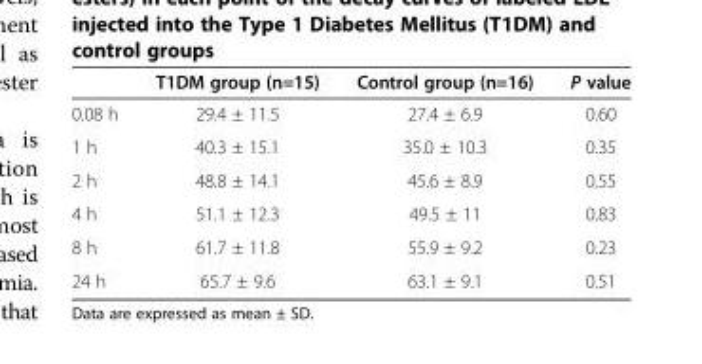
<table><thead><tr><td></td><td>T1DM group (n=15)</td><td>Control group (n=16)</td><td>P value</td></tr></thead><tbody><tr><td>0.08 h</td><td>29.4 ± 11.5</td><td>27.4 ± 6.9</td><td>0.60</td></tr><tr><td>1 h</td><td>40.3 ± 15.1</td><td>35.0 ± 10.3</td><td>0.35</td></tr><tr><td>2 h</td><td>48.8 ± 14.1</td><td>45.6 ± 8.9</td><td>0.55</td></tr><tr><td>4 h</td><td>51.1 ± 12.3</td><td>49.5 ± 11</td><td>0.83</td></tr><tr><td>8 h</td><td>61.7 ± 11.8</td><td>55.9 ± 9.2</td><td>0.23</td></tr><tr><td>24 h</td><td>65.7 ± 9.6</td><td>63.1 ± 9.1</td><td>0.51</td></tr></tbody></table>